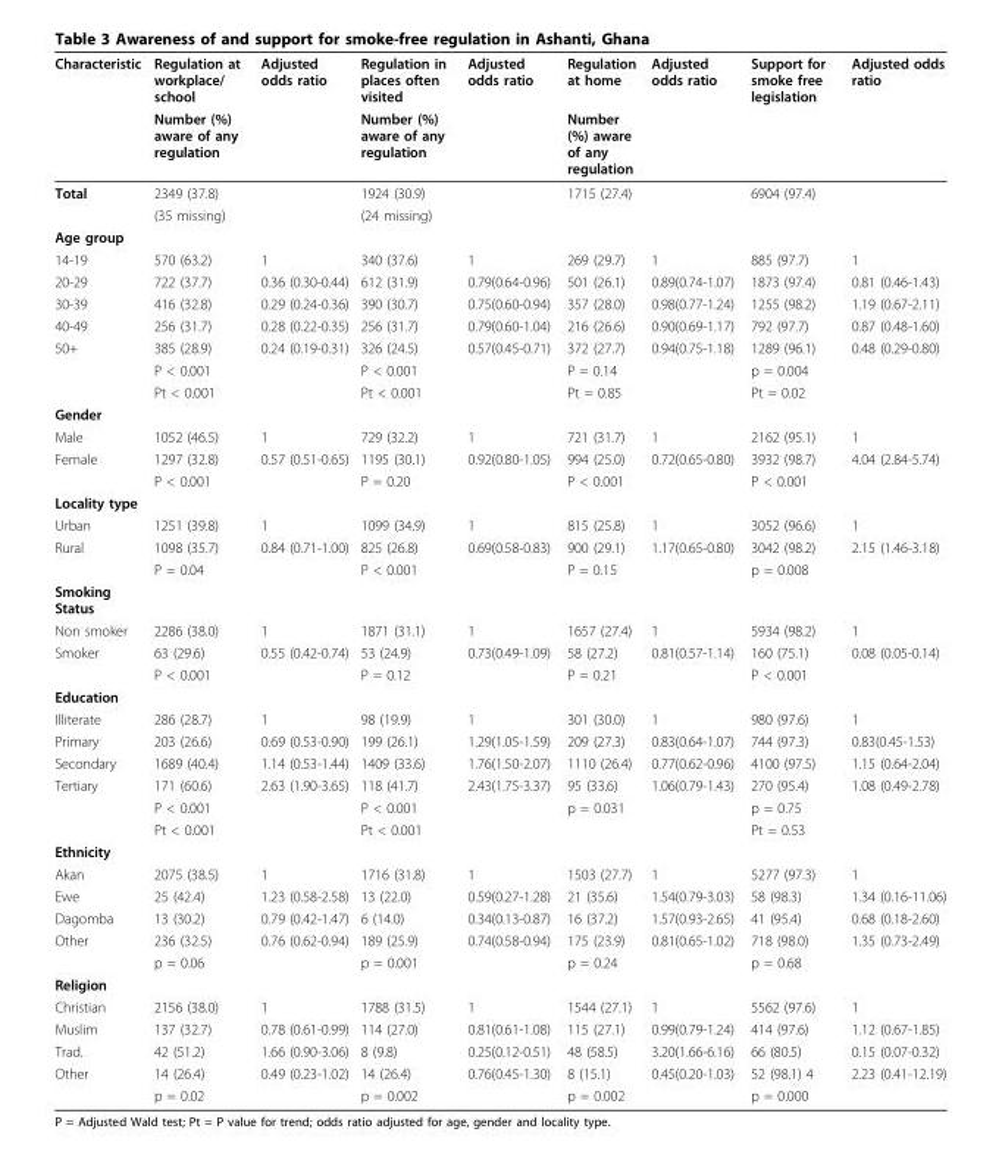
<table><thead><tr><td rowspan="2">Characteristic</td><td rowspan="2">Regulation at workplace/ school Number (%) aware of any regulation</td><td rowspan="2">Adjusted odds ratio</td><td rowspan="2">Regulation in places often visited Number (%) aware of any regulation</td><td rowspan="2">Adjusted odds ratio</td><td rowspan="2">Regulation at home Number (%) aware of any regulation</td><td rowspan="2">Adjusted odds ratio</td><td rowspan="2">Support for smoke free legislation</td><td rowspan="2">Adjusted odds ratio</td></tr><tr></tr></thead><tbody><tr><td rowspan="2">Total</td><td>2349 (37.8)</td><td></td><td>1924 (30.9)</td><td></td><td>1715 (27.4)</td><td></td><td>6904 (97.4)</td><td></td></tr><tr><td>(35 missing)</td><td></td><td>(24 missing)</td><td></td><td></td><td></td><td></td><td></td></tr><tr><td colspan="9">Age group</td></tr><tr><td>14-19</td><td>570 (63.2)</td><td>1</td><td>340 (37.6)</td><td>1</td><td>269 (29.7)</td><td>1</td><td>885 (97.7)</td><td>1</td></tr><tr><td>20-29</td><td>722 (37.7)</td><td>0.36 (0.30-0.44)</td><td>612 (31.9)</td><td>0.79(0.64-0.96)</td><td>501 (26.1)</td><td>0.89(0.74-1.07)</td><td>1873 (97.4)</td><td>0.81 (0.46-1.43)</td></tr><tr><td>30-39</td><td>416 (32.8)</td><td>0.29 (0.24-0.36)</td><td>390 (30.7)</td><td>0.75(0.60-0.94)</td><td>357 (28.0)</td><td>0.98(0.77-1.24)</td><td>1255 (98.2)</td><td>1.19 (0.67-2.11)</td></tr><tr><td>40-49</td><td>256 (31.7)</td><td>0.28 (0.22-0.35)</td><td>256 (31.7)</td><td>0.79(0.60-1.04)</td><td>216 (26.6)</td><td>0.90(0.69-1.17)</td><td>792 (97.7)</td><td>0.87 (0.48-1.60)</td></tr><tr><td rowspan="3">50+</td><td>385 (28.9)</td><td>0.24 (0.19-0.31)</td><td>326 (24.5)</td><td>0.57(0.45-0.71)</td><td>372 (27.7)</td><td>0.94(0.75-1.18)</td><td>1289 (96.1)</td><td>0.48 (0.29-0.80)</td></tr><tr><td>P &lt; 0.001</td><td></td><td>P &lt; 0.001</td><td></td><td>P = 0.14</td><td></td><td>p = 0.004</td><td></td></tr><tr><td>Pt &lt; 0.001</td><td></td><td>Pt &lt; 0.001</td><td></td><td>Pt = 0.85</td><td></td><td>Pt = 0.02</td><td></td></tr><tr><td colspan="9">Gender</td></tr><tr><td>Male</td><td>1052 (46.5)</td><td>1</td><td>729 (32.2)</td><td>1</td><td>721 (31.7)</td><td>1</td><td>2162 (95.1)</td><td>1</td></tr><tr><td rowspan="2">Female</td><td>1297 (32.8)</td><td>0.57 (0.51-0.65)</td><td>1195 (30.1)</td><td>0.92(0.80-1.05)</td><td>994 (25.0)</td><td>0.72(0.65-0.80)</td><td>3932 (98.7)</td><td>4.04 (2.84-5.74)</td></tr><tr><td>P &lt; 0.001</td><td></td><td>P = 0.20</td><td></td><td>P &lt; 0.001</td><td></td><td>P &lt; 0.001</td><td></td></tr><tr><td colspan="9">Locality type</td></tr><tr><td>Urban</td><td>1251 (39.8)</td><td>1</td><td>1099 (34.9)</td><td>1</td><td>815 (25.8)</td><td>1</td><td>3052 (96.6)</td><td>1</td></tr><tr><td rowspan="2">Rural</td><td>1098 (35.7)</td><td>0.84 (0.71-1.00)</td><td>825 (26.8)</td><td>0.69(0.58-0.83)</td><td>900 (29.1)</td><td>1.17(0.65-0.80)</td><td>3042 (98.2)</td><td>2.15 (1.46-3.18)</td></tr><tr><td>P = 0.04</td><td></td><td>P &lt; 0.001</td><td></td><td>P = 0.15</td><td></td><td>p = 0.008</td><td></td></tr><tr><td colspan="9">Smoking Status</td></tr><tr><td>Non smoker</td><td>2286 (38.0)</td><td>1</td><td>1871 (31.1)</td><td>1</td><td>1657 (27.4)</td><td>1</td><td>5934 (98.2)</td><td>1</td></tr><tr><td rowspan="2">Smoker</td><td>63 (29.6)</td><td>0.55 (0.42-0.74)</td><td>53 (24.9)</td><td>0.73(0.49-1.09)</td><td>58 (27.2)</td><td>0.81(0.57-1.14)</td><td>160 (75.1)</td><td>0.08 (0.05-0.14)</td></tr><tr><td>P &lt; 0.001</td><td></td><td>P = 0.12</td><td></td><td>P = 0.21</td><td></td><td>P &lt; 0.001</td><td></td></tr><tr><td colspan="9">Education</td></tr><tr><td>Illiterate</td><td>286 (28.7)</td><td>1</td><td>98 (19.9)</td><td>1</td><td>301 (30.0)</td><td>1</td><td>980 (97.6)</td><td>1</td></tr><tr><td>Primary</td><td>203 (26.6)</td><td>0.69 (0.53-0.90)</td><td>199 (26.1)</td><td>1.29(1.05-1.59)</td><td>209 (27.3)</td><td>0.83(0.64-1.07)</td><td>744 (97.3)</td><td>0.83(0.45-1.53)</td></tr><tr><td>Secondary</td><td>1689 (40.4)</td><td>1.14 (0.53-1.44)</td><td>1409 (33.6)</td><td>1.76(1.50-2.07)</td><td>1110 (26.4)</td><td>0.77(0.62-0.96)</td><td>4100 (97.5)</td><td>1.15 (0.64-2.04)</td></tr><tr><td rowspan="3">Tertiary</td><td>171 (60.6)</td><td>2.63 (1.90-3.65)</td><td>118 (41.7)</td><td>2.43(1.75-3.37)</td><td>95 (33.6)</td><td>1.06(0.79-1.43)</td><td>270 (95.4)</td><td>1.08 (0.49-2.78)</td></tr><tr><td>P &lt; 0.001</td><td></td><td>P &lt; 0.001</td><td></td><td>p = 0.031</td><td></td><td>p = 0.75</td><td></td></tr><tr><td>Pt &lt; 0.001</td><td></td><td>Pt &lt; 0.001</td><td></td><td></td><td></td><td>Pt = 0.53</td><td></td></tr><tr><td colspan="9">Ethnicity</td></tr><tr><td>Akan</td><td>2075 (38.5)</td><td>1</td><td>1716 (31.8)</td><td>1</td><td>1503 (27.7)</td><td>1</td><td>5277 (97.3)</td><td>1</td></tr><tr><td>Ewe</td><td>25 (42.4)</td><td>1.23 (0.58-2.58)</td><td>13 (22.0)</td><td>0.59(0.27-1.28)</td><td>21 (35.6)</td><td>1.54(0.79-3.03)</td><td>58 (98.3)</td><td>1.34 (0.16-11.06)</td></tr><tr><td>Dagomba</td><td>13 (30.2)</td><td>0.79 (0.42-1.47)</td><td>6 (14.0)</td><td>0.34(0.13-0.87)</td><td>16 (37.2)</td><td>1.57(0.93-2.65)</td><td>41 (95.4)</td><td>0.68 (0.18-2.60)</td></tr><tr><td rowspan="2">Other</td><td>236 (32.5)</td><td>0.76 (0.62-0.94)</td><td>189 (25.9)</td><td>0.74(0.58-0.94)</td><td>175 (23.9)</td><td>0.81(0.65-1.02)</td><td>718 (98.0)</td><td>1.35 (0.73-2.49)</td></tr><tr><td>p = 0.06</td><td></td><td>p = 0.001</td><td></td><td>p = 0.24</td><td></td><td>p = 0.68</td><td></td></tr><tr><td colspan="9">Religion</td></tr><tr><td>Christian</td><td>2156 (38.0)</td><td>1</td><td>1788 (31.5)</td><td>1</td><td>1544 (27.1)</td><td>1</td><td>5562 (97.6)</td><td>1</td></tr><tr><td>Muslim</td><td>137 (32.7)</td><td>0.78 (0.61-0.99)</td><td>114 (27.0)</td><td>0.81(0.61-1.08)</td><td>115 (27.1)</td><td>0.99(0.79-1.24)</td><td>414 (97.6)</td><td>1.12 (0.67-1.85)</td></tr><tr><td>Trad.</td><td>42 (51.2)</td><td>1.66 (0.90-3.06)</td><td>8 (9.8)</td><td>0.25(0.12-0.51)</td><td>48 (58.5)</td><td>3.20(1.66-6.16)</td><td>66 (80.5)</td><td>0.15 (0.07-0.32)</td></tr><tr><td rowspan="2">Other</td><td>14 (26.4)</td><td>0.49 (0.23-1.02)</td><td>14 (26.4)</td><td>0.76(0.45-1.30)</td><td>8 (15.1)</td><td>0.45(0.20-1.03)</td><td>52 (98.1) 4</td><td>2.23 (0.41-12.19)</td></tr><tr><td>p = 0.02</td><td></td><td>p = 0.002</td><td></td><td>p = 0.002</td><td></td><td>p = 0.000</td><td></td></tr></tbody></table>